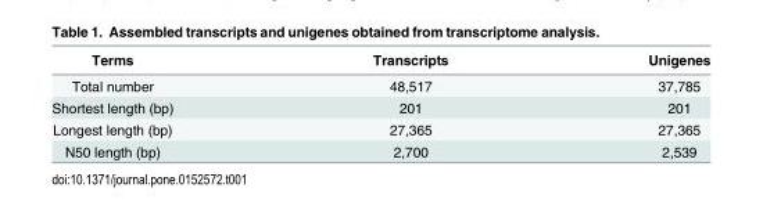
<table><thead><tr><td>Terms</td><td>Transcripts</td><td>Unigenes</td></tr></thead><tbody><tr><td>Total number</td><td>48,517</td><td>37,785</td></tr><tr><td>Shortest length (bp)</td><td>201</td><td>201</td></tr><tr><td>Longest length (bp)</td><td>27,365</td><td>27,365</td></tr><tr><td>N50 length (bp)</td><td>2,700</td><td>2,539</td></tr></tbody></table>